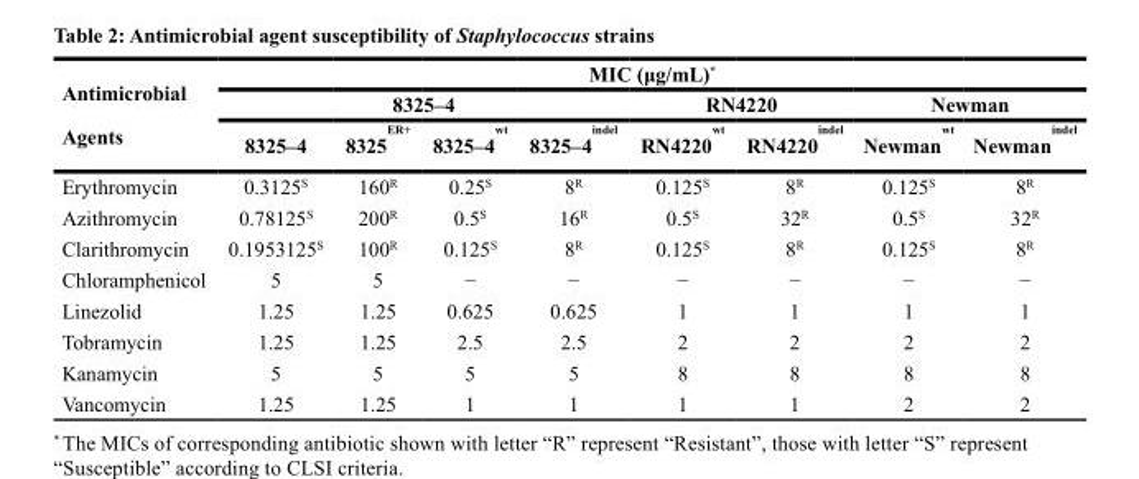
<table><thead><tr><td rowspan="3">Antimicrobial Agents</td><td colspan="8">MIC (μg/mL)*</td></tr><tr><td colspan="4">8325–4</td><td colspan="2">RN4220</td><td colspan="2">Newman</td></tr><tr><td>8325–4</td><td>8325 <sup>ER+</sup></td><td>8325–4 <sup>wt</sup></td><td>8325–4 <sup>indel</sup></td><td>RN4220 <sup>wt</sup></td><td>RN4220 <sup>indel</sup></td><td>Newman <sup>wt</sup></td><td>Newman <sup>indel</sup></td></tr></thead><tbody><tr><td>Erythromycin</td><td>0.3125<sup>S</sup></td><td>160<sup>R</sup></td><td>0.25<sup>S</sup></td><td>8<sup>R</sup></td><td>0.125<sup>S</sup></td><td>8<sup>R</sup></td><td>0.125<sup>S</sup></td><td>8<sup>R</sup></td></tr><tr><td>Azithromycin</td><td>0.78125<sup>S</sup></td><td>200<sup>R</sup></td><td>0.5<sup>S</sup></td><td>16<sup>R</sup></td><td>0.5<sup>S</sup></td><td>32<sup>R</sup></td><td>0.5<sup>S</sup></td><td>32<sup>R</sup></td></tr><tr><td>Clarithromycin</td><td>0.1953125<sup>S</sup></td><td>100<sup>R</sup></td><td>0.125<sup>S</sup></td><td>8<sup>R</sup></td><td>0.125<sup>S</sup></td><td>8<sup>R</sup></td><td>0.125<sup>S</sup></td><td>8<sup>R</sup></td></tr><tr><td>Chloramphenicol</td><td>5</td><td>5</td><td>−</td><td>−</td><td>−</td><td>−</td><td>−</td><td>−</td></tr><tr><td>Linezolid</td><td>1.25</td><td>1.25</td><td>0.625</td><td>0.625</td><td>1</td><td>1</td><td>1</td><td>1</td></tr><tr><td>Tobramycin</td><td>1.25</td><td>1.25</td><td>2.5</td><td>2.5</td><td>2</td><td>2</td><td>2</td><td>2</td></tr><tr><td>Kanamycin</td><td>5</td><td>5</td><td>5</td><td>5</td><td>8</td><td>8</td><td>8</td><td>8</td></tr><tr><td>Vancomycin</td><td>1.25</td><td>1.25</td><td>1</td><td>1</td><td>1</td><td>1</td><td>2</td><td>2</td></tr></tbody></table>